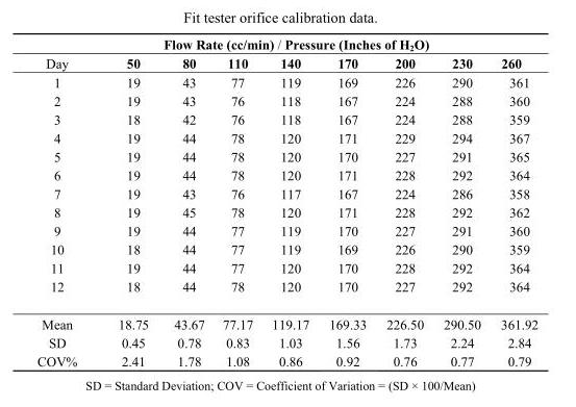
<table><thead><tr><td rowspan="2">Day</td><td colspan="7">Flow Rate (cc/min) / Pressure (Inches of H<sub>2</sub>O)</td><td rowspan="2">260</td></tr><tr><td>50</td><td>80</td><td>110</td><td>140</td><td>170</td><td>200</td><td>230</td></tr></thead><tbody><tr><td>1</td><td>19</td><td>43</td><td>77</td><td>119</td><td>169</td><td>226</td><td>290</td><td>361</td></tr><tr><td>2</td><td>19</td><td>43</td><td>76</td><td>118</td><td>167</td><td>224</td><td>288</td><td>360</td></tr><tr><td>3</td><td>18</td><td>42</td><td>76</td><td>118</td><td>167</td><td>224</td><td>288</td><td>359</td></tr><tr><td>4</td><td>19</td><td>44</td><td>78</td><td>120</td><td>171</td><td>229</td><td>294</td><td>367</td></tr><tr><td>5</td><td>19</td><td>44</td><td>78</td><td>120</td><td>170</td><td>227</td><td>291</td><td>365</td></tr><tr><td>6</td><td>19</td><td>44</td><td>78</td><td>120</td><td>171</td><td>228</td><td>292</td><td>364</td></tr><tr><td>7</td><td>19</td><td>43</td><td>76</td><td>117</td><td>167</td><td>224</td><td>286</td><td>358</td></tr><tr><td>8</td><td>19</td><td>45</td><td>78</td><td>120</td><td>171</td><td>228</td><td>292</td><td>362</td></tr><tr><td>9</td><td>19</td><td>44</td><td>77</td><td>119</td><td>170</td><td>227</td><td>291</td><td>360</td></tr><tr><td>10</td><td>18</td><td>44</td><td>77</td><td>119</td><td>169</td><td>226</td><td>290</td><td>359</td></tr><tr><td>11</td><td>19</td><td>44</td><td>77</td><td>120</td><td>170</td><td>228</td><td>292</td><td>364</td></tr><tr><td>12</td><td>18</td><td>44</td><td>78</td><td>120</td><td>170</td><td>227</td><td>292</td><td>364</td></tr><tr><td>Mean</td><td>18.75</td><td>43.67</td><td>77.17</td><td>119.17</td><td>169.33</td><td>226.50</td><td>290.50</td><td>361.92</td></tr><tr><td>SD</td><td>0.45</td><td>0.78</td><td>0.83</td><td>1.03</td><td>1.56</td><td>1.73</td><td>2.24</td><td>2.84</td></tr><tr><td>COV%</td><td>2.41</td><td>1.78</td><td>1.08</td><td>0.86</td><td>0.92</td><td>0.76</td><td>0.77</td><td>0.79</td></tr></tbody></table>